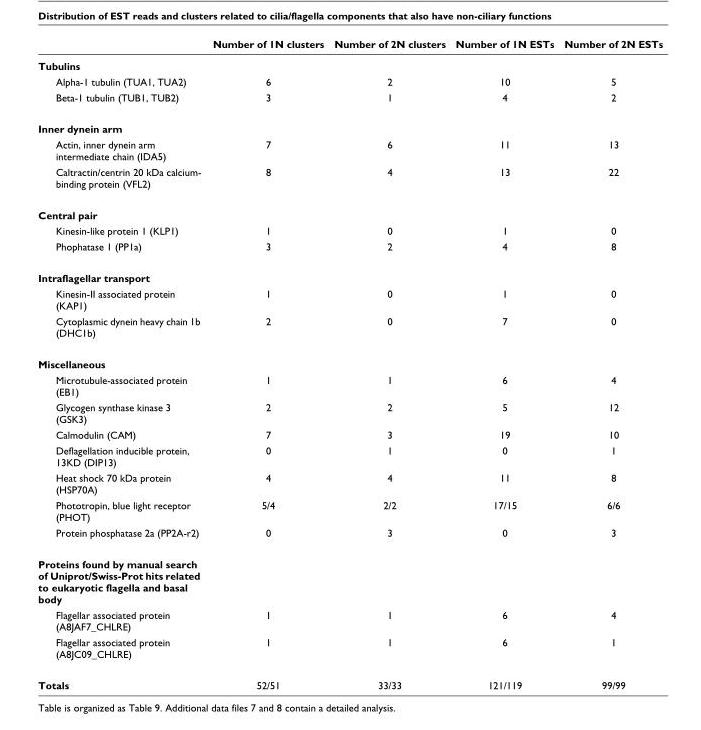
<table><thead><tr><td></td><td>Number of 1N clusters</td><td>Number of 2N clusters</td><td>Number of 1N ESTs</td><td>Number of 2N ESTs</td></tr></thead><tbody><tr><td colspan="5">Tubulins</td></tr><tr><td>Alpha-1 tubulin (TUA1, TUA2)</td><td>6</td><td>2</td><td>10</td><td>5</td></tr><tr><td>Beta-1 tubulin (TUB1, TUB2)</td><td>3</td><td>1</td><td>4</td><td>2</td></tr><tr><td colspan="5">Inner dynein arm</td></tr><tr><td>Actin, inner dynein arm intermediate chain (IDA5)</td><td>7</td><td>6</td><td>11</td><td>13</td></tr><tr><td>Caltractin/centrin 20 kDa calcium- binding protein (VFL2)</td><td>8</td><td>4</td><td>13</td><td>22</td></tr><tr><td colspan="5">Central pair</td></tr><tr><td>Kinesin-like protein 1 (KLP1)</td><td>1</td><td>0</td><td>1</td><td>0</td></tr><tr><td>Phophatase 1 (PP1a)</td><td>3</td><td>2</td><td>4</td><td>8</td></tr><tr><td colspan="5">Intraflagellar transport</td></tr><tr><td>Kinesin-II associated protein (KAP1)</td><td>1</td><td>0</td><td>1</td><td>0</td></tr><tr><td>Cytoplasmic dynein heavy chain 1b (DHC1b)</td><td>2</td><td>0</td><td>7</td><td>0</td></tr><tr><td colspan="5">Miscellaneous</td></tr><tr><td>Microtubule-associated protein (EB1)</td><td>1</td><td>1</td><td>6</td><td>4</td></tr><tr><td>Glycogen synthase kinase 3 (GSK3)</td><td>2</td><td>2</td><td>5</td><td>12</td></tr><tr><td>Calmodulin (CAM)</td><td>7</td><td>3</td><td>19</td><td>10</td></tr><tr><td>Deflagellation inducible protein, 13KD (DIP13)</td><td>0</td><td>1</td><td>0</td><td>1</td></tr><tr><td>Heat shock 70 kDa protein (HSP70A)</td><td>4</td><td>4</td><td>11</td><td>8</td></tr><tr><td>Phototropin, blue light receptor (PHOT)</td><td>5/4</td><td>2/2</td><td>17/15</td><td>6/6</td></tr><tr><td>Protein phosphatase 2a (PP2A-r2)</td><td>0</td><td>3</td><td>0</td><td>3</td></tr><tr><td colspan="5">Proteins found by manual search of Uniprot/Swiss-Prot hits related to eukaryotic flagella and basal body</td></tr><tr><td>Flagellar associated protein (A8JAF7_CHLRE)</td><td>1</td><td>1</td><td>6</td><td>4</td></tr><tr><td>Flagellar associated protein (A8JC09_CHLRE)</td><td>1</td><td>1</td><td>6</td><td>1</td></tr><tr><td>Totals</td><td>52/51</td><td>33/33</td><td>121/119</td><td>99/99</td></tr></tbody></table>